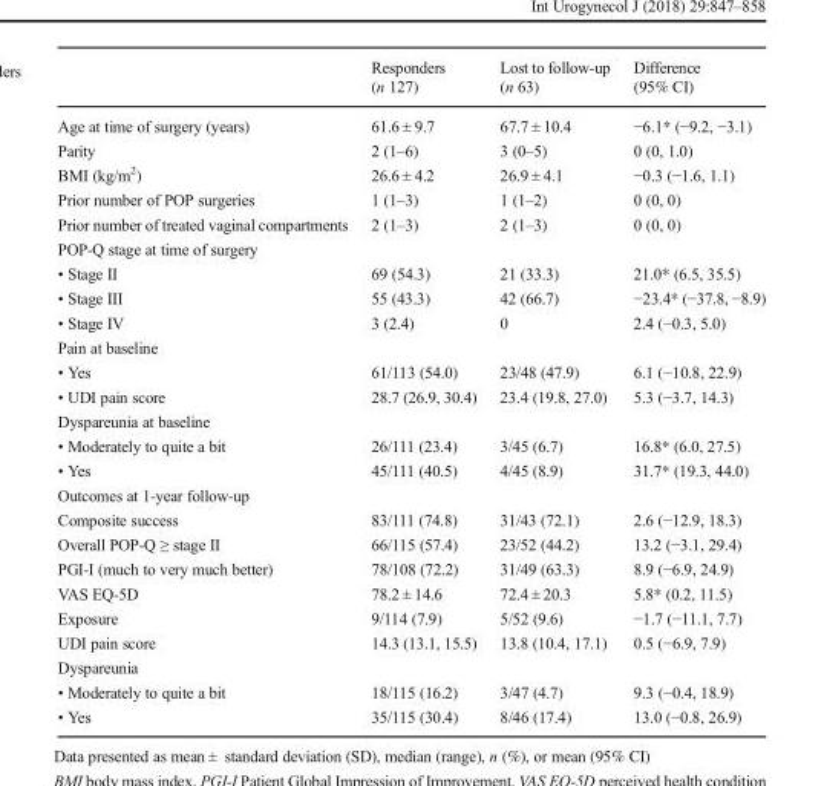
<table><thead><tr><td></td><td>Responders (n 127)</td><td>Lost to follow-up (n 63)</td><td>Difference (95% CI)</td></tr></thead><tbody><tr><td>Age at time of surgery (years)</td><td>61.6 ± 9.7</td><td>67.7 ± 10.4</td><td>−6.1* (−9.2, −3.1)</td></tr><tr><td>Parity</td><td>2 (1–6)</td><td>3 (0–5)</td><td>0 (0, 1.0)</td></tr><tr><td>BMI (kg/m<sup>2</sup>)</td><td>26.6 ± 4.2</td><td>26.9 ± 4.1</td><td>−0.3 (−1.6, 1.1)</td></tr><tr><td>Prior number of POP surgeries</td><td>1 (1–3)</td><td>1 (1–2)</td><td>0 (0, 0)</td></tr><tr><td>Prior number of treated vaginal compartments</td><td>2 (1–3)</td><td>2 (1–3)</td><td>0 (0, 0)</td></tr><tr><td colspan="4">POP-Q stage at time of surgery</td></tr><tr><td>• Stage II</td><td>69 (54.3)</td><td>21 (33.3)</td><td>21.0* (6.5, 35.5)</td></tr><tr><td>• Stage III</td><td>55 (43.3)</td><td>42 (66.7)</td><td>−23.4* (−37.8, −8.9)</td></tr><tr><td>• Stage IV</td><td>3 (2.4)</td><td>0</td><td>2.4 (−0.3, 5.0)</td></tr><tr><td colspan="4">Pain at baseline</td></tr><tr><td>• Yes</td><td>61/113 (54.0)</td><td>23/48 (47.9)</td><td>6.1 (−10.8, 22.9)</td></tr><tr><td>• UDI pain score</td><td>28.7 (26.9, 30.4)</td><td>23.4 (19.8, 27.0)</td><td>5.3 (−3.7, 14.3)</td></tr><tr><td colspan="4">Dyspareunia at baseline</td></tr><tr><td>• Moderately to quite a bit</td><td>26/111 (23.4)</td><td>3/45 (6.7)</td><td>16.8* (6.0, 27.5)</td></tr><tr><td>• Yes</td><td>45/111 (40.5)</td><td>4/45 (8.9)</td><td>31.7* (19.3, 44.0)</td></tr><tr><td colspan="4">Outcomes at 1-year follow-up</td></tr><tr><td>Composite success</td><td>83/111 (74.8)</td><td>31/43 (72.1)</td><td>2.6 (−12.9, 18.3)</td></tr><tr><td>Overall POP-Q ≥ stage II</td><td>66/115 (57.4)</td><td>23/52 (44.2)</td><td>13.2 (−3.1, 29.4)</td></tr><tr><td>PGI-I (much to very much better)</td><td>78/108 (72.2)</td><td>31/49 (63.3)</td><td>8.9 (−6.9, 24.9)</td></tr><tr><td>VAS EQ-5D</td><td>78.2 ± 14.6</td><td>72.4 ± 20.3</td><td>5.8* (0.2, 11.5)</td></tr><tr><td>Exposure</td><td>9/114 (7.9)</td><td>5/52 (9.6)</td><td>−1.7 (−11.1, 7.7)</td></tr><tr><td>UDI pain score</td><td>14.3 (13.1, 15.5)</td><td>13.8 (10.4, 17.1)</td><td>0.5 (−6.9, 7.9)</td></tr><tr><td colspan="4">Dyspareunia</td></tr><tr><td>• Moderately to quite a bit</td><td>18/115 (16.2)</td><td>3/47 (4.7)</td><td>9.3 (−0.4, 18.9)</td></tr><tr><td>• Yes</td><td>35/115 (30.4)</td><td>8/46 (17.4)</td><td>13.0 (−0.8, 26.9)</td></tr></tbody></table>